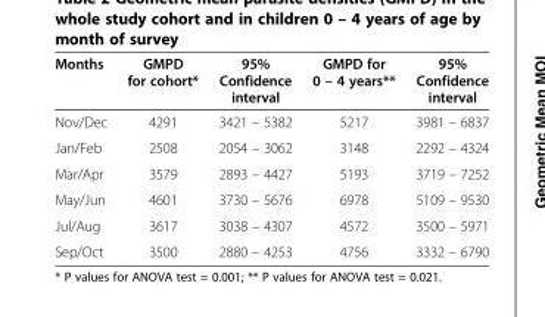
<table><thead><tr><td>Months</td><td>GMPD for cohort*</td><td>95% Confidence interval</td><td>GMPD for 0 – 4 years**</td><td>95% Confidence interval</td></tr></thead><tbody><tr><td>Nov/Dec</td><td>4291</td><td>3421 – 5382</td><td>5217</td><td>3981 – 6837</td></tr><tr><td>Jan/Feb</td><td>2508</td><td>2054 – 3062</td><td>3148</td><td>2292 – 4324</td></tr><tr><td>Mar/Apr</td><td>3579</td><td>2893 – 4427</td><td>5193</td><td>3719 – 7252</td></tr><tr><td>May/Jun</td><td>4601</td><td>3730 – 5676</td><td>6978</td><td>5109 – 9530</td></tr><tr><td>Jul/Aug</td><td>3617</td><td>3038 – 4307</td><td>4572</td><td>3500 – 5971</td></tr><tr><td>Sep/Oct</td><td>3500</td><td>2880 – 4253</td><td>4756</td><td>3332 – 6790</td></tr></tbody></table>